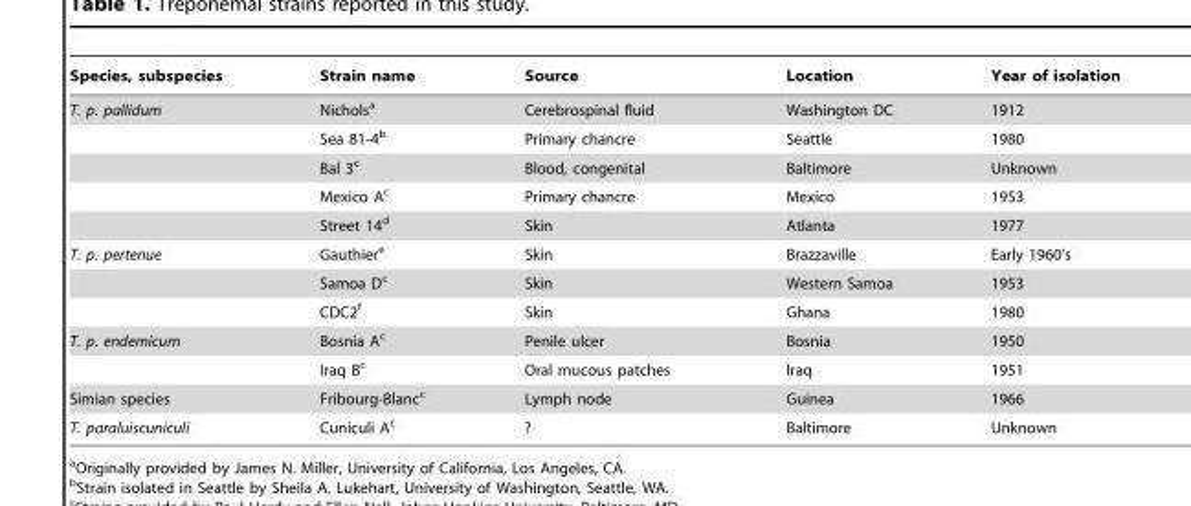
<table><thead><tr><td>Species, subspecies</td><td>Strain name</td><td>Source</td><td>Location</td><td>Year of isolation</td></tr></thead><tbody><tr><td rowspan="5">T. p. pallidum</td><td>Nichols<sup>a</sup></td><td>Cerebrospinal fluid</td><td>Washington DC</td><td>1912</td></tr><tr><td>Sea 81-4<sup>b</sup></td><td>Primary chancre</td><td>Seattle</td><td>1980</td></tr><tr><td>Bal 3<sup>c</sup></td><td>Blood, congenital</td><td>Baltimore</td><td>Unknown</td></tr><tr><td>Mexico A<sup>c</sup></td><td>Primary chancre</td><td>Mexico</td><td>1953</td></tr><tr><td>Street 14<sup>d</sup></td><td>Skin</td><td>Atlanta</td><td>1977</td></tr><tr><td rowspan="3">T. p. pertenue</td><td>Gauthier<sup>e</sup></td><td>Skin</td><td>Brazzaville</td><td>Early 1960’s</td></tr><tr><td>Samoa D<sup>c</sup></td><td>Skin</td><td>Western Samoa</td><td>1953</td></tr><tr><td>CDC2<sup>f</sup></td><td>Skin</td><td>Ghana</td><td>1980</td></tr><tr><td rowspan="2">T. p. endemicum</td><td>Bosnia A<sup>c</sup></td><td>Penile ulcer</td><td>Bosnia</td><td>1950</td></tr><tr><td>Iraq B<sup>c</sup></td><td>Oral mucous patches</td><td>Iraq</td><td>1951</td></tr><tr><td>Simian species</td><td>Fribourg-Blanc<sup>c</sup></td><td>Lymph node</td><td>Guinea</td><td>1966</td></tr><tr><td>T. paraluiscuniculi</td><td>Cuniculi A<sup>c</sup></td><td>?</td><td>Baltimore</td><td>Unknown</td></tr></tbody></table>